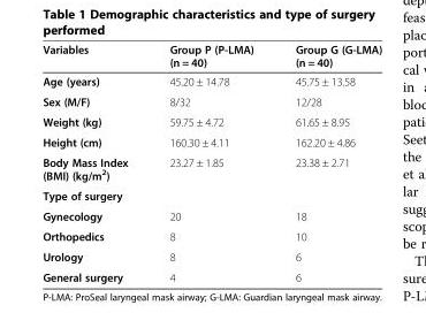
<table><thead><tr><td>Variables</td><td>Group P (P-LMA) (n = 40)</td><td>Group G (G-LMA) (n = 40)</td></tr></thead><tbody><tr><td>Age (years)</td><td>45.20 ± 14.78</td><td>45.75 ± 13.58</td></tr><tr><td>Sex (M/F)</td><td>8/32</td><td>12/28</td></tr><tr><td>Weight (kg)</td><td>59.75 ± 4.72</td><td>61.65 ± 8.95</td></tr><tr><td>Height (cm)</td><td>160.30 ± 4.11</td><td>162.20 ± 4.86</td></tr><tr><td>Body Mass Index (BMI) (kg/m<sup>2</sup>)</td><td>23.27 ± 1.85</td><td>23.38 ± 2.71</td></tr><tr><td colspan="3">Type of surgery</td></tr><tr><td>Gynecology</td><td>20</td><td>18</td></tr><tr><td>Orthopedics</td><td>8</td><td>10</td></tr><tr><td>Urology</td><td>8</td><td>6</td></tr><tr><td>General surgery</td><td>4</td><td>6</td></tr></tbody></table>